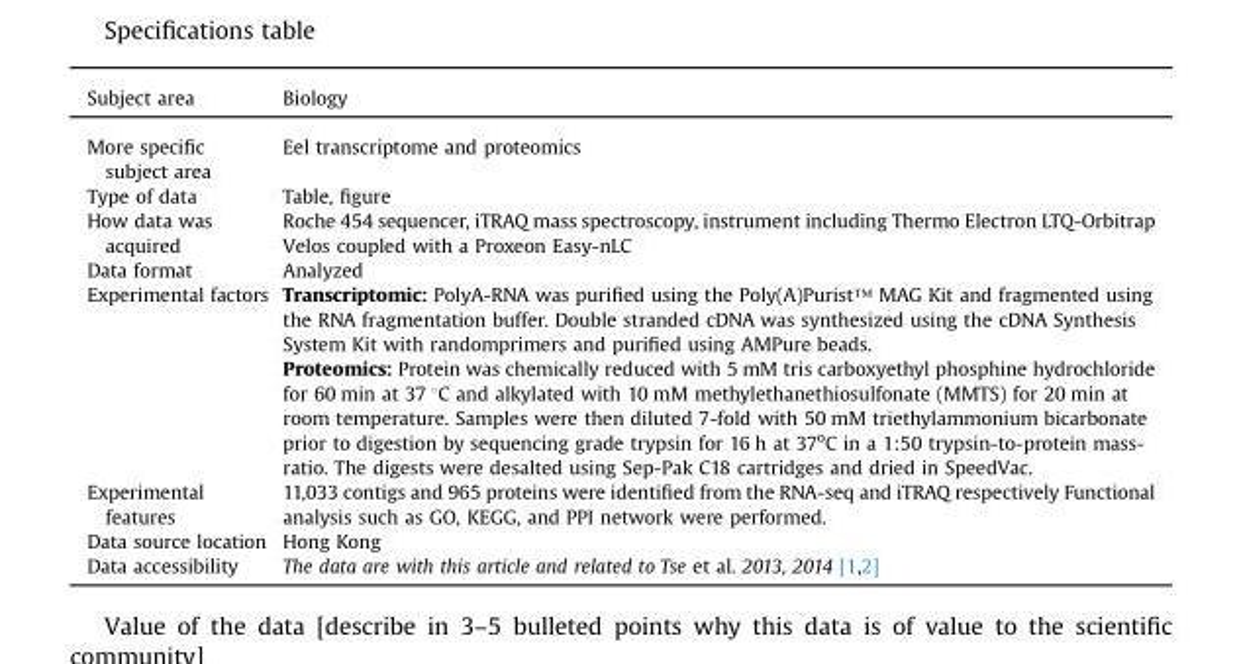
<table><tbody><tr><td>Subject area</td><td>Biology</td></tr><tr><td>More specific subject area</td><td>Eel transcriptome and proteomics</td></tr><tr><td>Type of data</td><td>Table, figure</td></tr><tr><td>How data was acquired</td><td>Roche 454 sequencer, iTRAQ mass spectroscopy, instrument including Thermo Electron LTQ-Orbitrap Velos coupled with a Proxeon Easy-nLC</td></tr><tr><td>Data format</td><td>Analyzed</td></tr><tr><td>Experimental factors</td><td>Transcriptomic: PolyA-RNA was purified using the Poly(A)Purist™ MAG Kit and fragmented using the RNA fragmentation buffer. Double stranded cDNA was synthesized using the cDNA Synthesis System Kit with randomprimers and purified using AMPure beads. Proteomics: Protein was chemically reduced with 5 mM tris carboxyethyl phosphine hydrochloride for 60 min at 37 °C and alkylated with 10 mM methylethanethiosulfonate (MMTS) for 20 min at room temperature. Samples were then diluted 7-fold with 50 mM triethylammonium bicarbonate prior to digestion by sequencing grade trypsin for 16 h at 37<sup>o</sup>C in a 1:50 trypsin-to-protein mass- ratio. The digests were desalted using Sep-Pak C18 cartridges and dried in SpeedVac.</td></tr><tr><td>Experimental features</td><td>11,033 contigs and 965 proteins were identified from the RNA-seq and iTRAQ respectively Functional analysis such as GO, KEGG, and PPI network were performed.</td></tr><tr><td>Data source location</td><td>Hong Kong</td></tr><tr><td>Data accessibility</td><td>The data are with this article and related to Tse et al. 2013, 2014 [1,2]</td></tr></tbody></table>